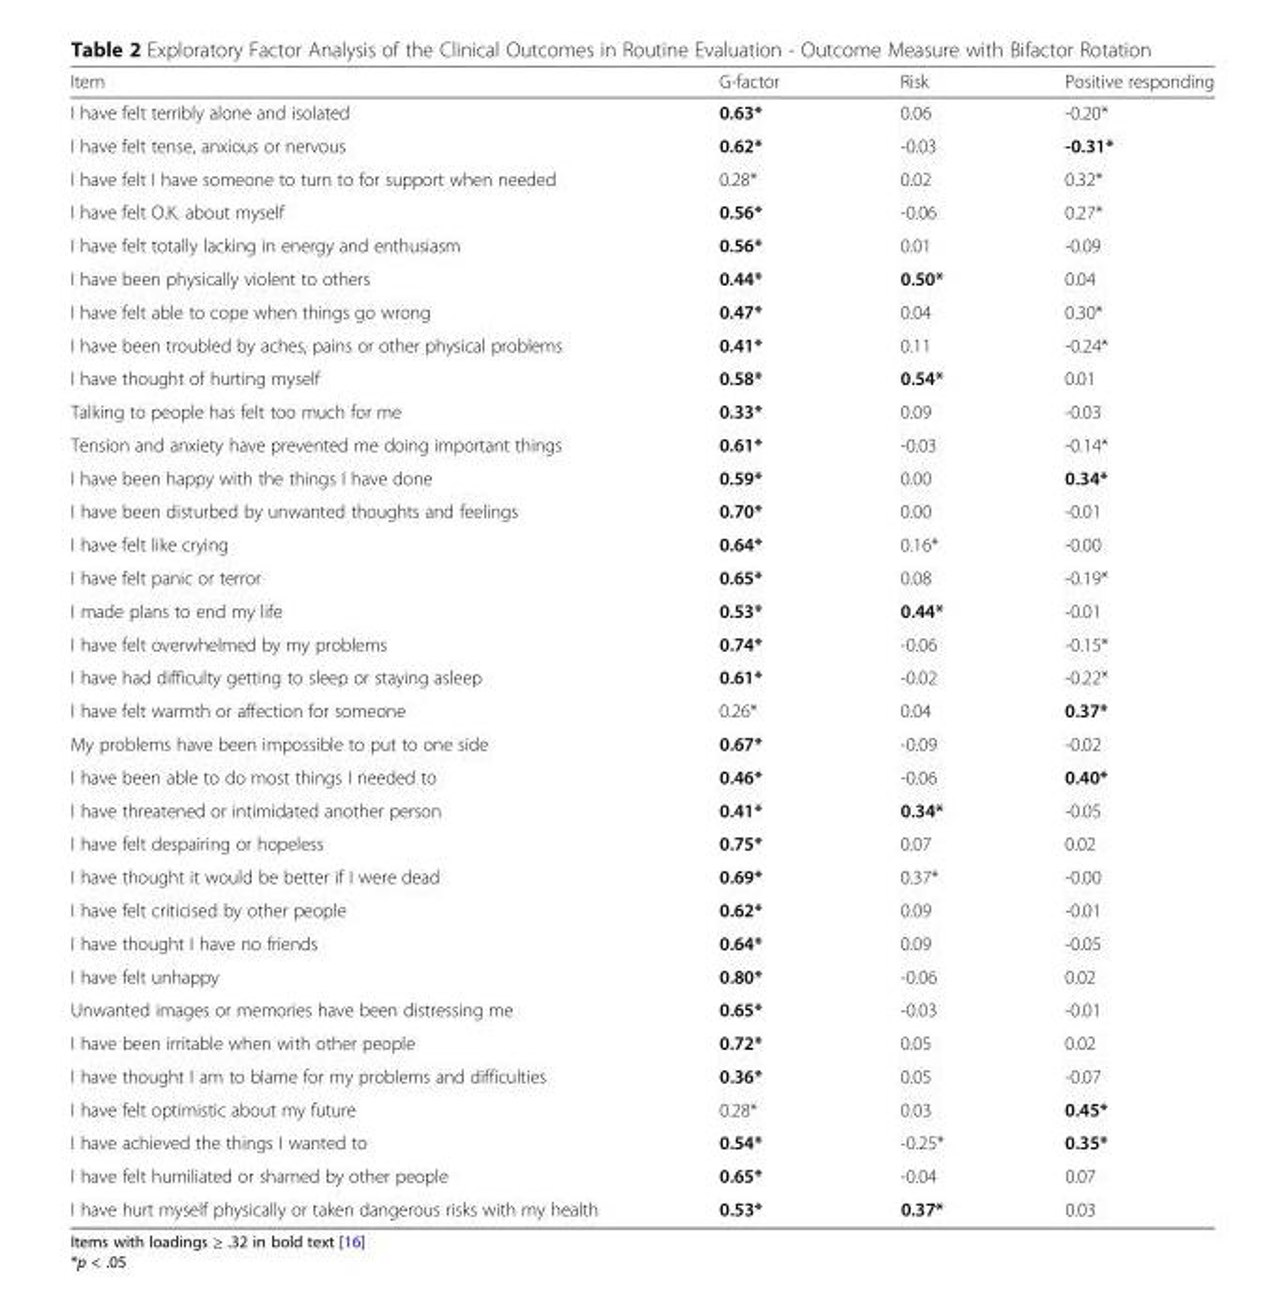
<table><thead><tr><td>Item</td><td>G-factor</td><td>Risk</td><td>Positive responding</td></tr></thead><tbody><tr><td>I have felt terribly alone and isolated</td><td>0.63*</td><td>0.06</td><td>-0.20*</td></tr><tr><td>I have felt tense, anxious or nervous</td><td>0.62*</td><td>-0.03</td><td>-0.31*</td></tr><tr><td>I have felt I have someone to turn to for support when needed</td><td>0.28*</td><td>0.02</td><td>0.32*</td></tr><tr><td>I have felt O.K. about myself</td><td>0.56*</td><td>-0.06</td><td>0.27*</td></tr><tr><td>I have felt totally lacking in energy and enthusiasm</td><td>0.56*</td><td>0.01</td><td>-0.09</td></tr><tr><td>I have been physically violent to others</td><td>0.44*</td><td>0.50*</td><td>0.04</td></tr><tr><td>I have felt able to cope when things go wrong</td><td>0.47*</td><td>0.04</td><td>0.30*</td></tr><tr><td>I have been troubled by aches, pains or other physical problems</td><td>0.41*</td><td>0.11</td><td>-0.24*</td></tr><tr><td>I have thought of hurting myself</td><td>0.58*</td><td>0.54*</td><td>0.01</td></tr><tr><td>Talking to people has felt too much for me</td><td>0.33*</td><td>0.09</td><td>-0.03</td></tr><tr><td>Tension and anxiety have prevented me doing important things</td><td>0.61*</td><td>-0.03</td><td>-0.14*</td></tr><tr><td>I have been happy with the things I have done</td><td>0.59*</td><td>0.00</td><td>0.34*</td></tr><tr><td>I have been disturbed by unwanted thoughts and feelings</td><td>0.70*</td><td>0.00</td><td>-0.01</td></tr><tr><td>I have felt like crying</td><td>0.64*</td><td>0.16*</td><td>-0.00</td></tr><tr><td>I have felt panic or terror</td><td>0.65*</td><td>0.08</td><td>-0.19*</td></tr><tr><td>I made plans to end my life</td><td>0.53*</td><td>0.44*</td><td>-0.01</td></tr><tr><td>I have felt overwhelmed by my problems</td><td>0.74*</td><td>-0.06</td><td>-0.15*</td></tr><tr><td>I have had difficulty getting to sleep or staying asleep</td><td>0.61*</td><td>-0.02</td><td>-0.22*</td></tr><tr><td>I have felt warmth or affection for someone</td><td>0.26*</td><td>0.04</td><td>0.37*</td></tr><tr><td>My problems have been impossible to put to one side</td><td>0.67*</td><td>-0.09</td><td>-0.02</td></tr><tr><td>I have been able to do most things I needed to</td><td>0.46*</td><td>-0.06</td><td>0.40*</td></tr><tr><td>I have threatened or intimidated another person</td><td>0.41*</td><td>0.34*</td><td>-0.05</td></tr><tr><td>I have felt despairing or hopeless</td><td>0.75*</td><td>0.07</td><td>0.02</td></tr><tr><td>I have thought it would be better if I were dead</td><td>0.69*</td><td>0.37*</td><td>-0.00</td></tr><tr><td>I have felt criticised by other people</td><td>0.62*</td><td>0.09</td><td>-0.01</td></tr><tr><td>I have thought I have no friends</td><td>0.64*</td><td>0.09</td><td>-0.05</td></tr><tr><td>I have felt unhappy</td><td>0.80*</td><td>-0.06</td><td>0.02</td></tr><tr><td>Unwanted images or memories have been distressing me</td><td>0.65*</td><td>-0.03</td><td>-0.01</td></tr><tr><td>I have been irritable when with other people</td><td>0.72*</td><td>0.05</td><td>0.02</td></tr><tr><td>I have thought I am to blame for my problems and difficulties</td><td>0.36*</td><td>0.05</td><td>-0.07</td></tr><tr><td>I have felt optimistic about my future</td><td>0.28*</td><td>0.03</td><td>0.45*</td></tr><tr><td>I have achieved the things I wanted to</td><td>0.54*</td><td>-0.25*</td><td>0.35*</td></tr><tr><td>I have felt humiliated or shamed by other people</td><td>0.65*</td><td>-0.04</td><td>0.07</td></tr><tr><td>I have hurt myself physically or taken dangerous risks with my health</td><td>0.53*</td><td>0.37*</td><td>0.03</td></tr></tbody></table>